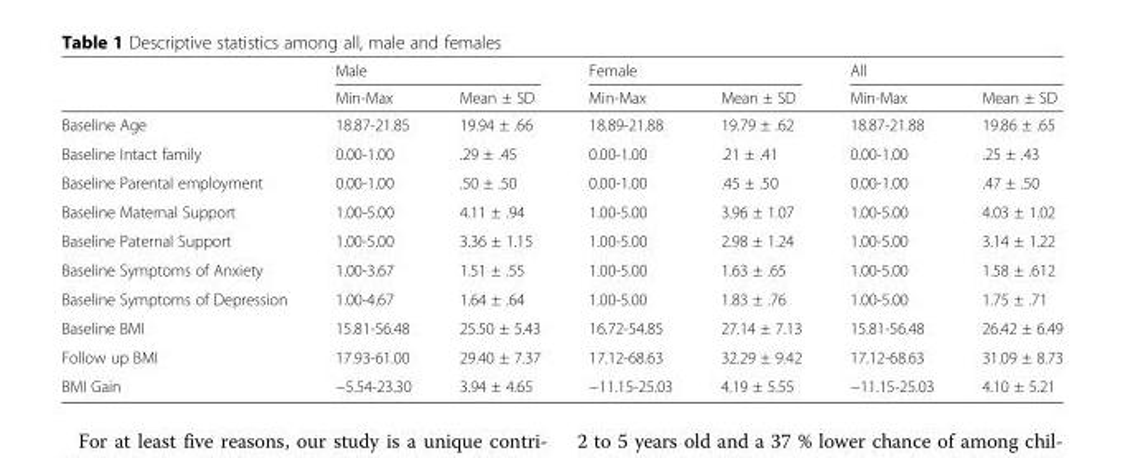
<table><thead><tr><td rowspan="2"></td><td colspan="2">Male</td><td colspan="2">Female</td><td colspan="2">All</td></tr><tr><td>Min-Max</td><td>Mean ± SD</td><td>Min-Max</td><td>Mean ± SD</td><td>Min-Max</td><td>Mean ± SD</td></tr></thead><tbody><tr><td>Baseline Age</td><td>18.87-21.85</td><td>19.94 ± .66</td><td>18.89-21.88</td><td>19.79 ± .62</td><td>18.87-21.88</td><td>19.86 ± .65</td></tr><tr><td>Baseline Intact family</td><td>0.00-1.00</td><td>.29 ± .45</td><td>0.00-1.00</td><td>.21 ± .41</td><td>0.00-1.00</td><td>.25 ± .43</td></tr><tr><td>Baseline Parental employment</td><td>0.00-1.00</td><td>.50 ± .50</td><td>0.00-1.00</td><td>.45 ± .50</td><td>0.00-1.00</td><td>.47 ± .50</td></tr><tr><td>Baseline Maternal Support</td><td>1.00-5.00</td><td>4.11 ± .94</td><td>1.00-5.00</td><td>3.96 ± 1.07</td><td>1.00-5.00</td><td>4.03 ± 1.02</td></tr><tr><td>Baseline Paternal Support</td><td>1.00-5.00</td><td>3.36 ± 1.15</td><td>1.00-5.00</td><td>2.98 ± 1.24</td><td>1.00-5.00</td><td>3.14 ± 1.22</td></tr><tr><td>Baseline Symptoms of Anxiety</td><td>1.00-3.67</td><td>1.51 ± .55</td><td>1.00-5.00</td><td>1.63 ± .65</td><td>1.00-5.00</td><td>1.58 ± .612</td></tr><tr><td>Baseline Symptoms of Depression</td><td>1.00-4.67</td><td>1.64 ± .64</td><td>1.00-5.00</td><td>1.83 ± .76</td><td>1.00-5.00</td><td>1.75 ± .71</td></tr><tr><td>Baseline BMI</td><td>15.81-56.48</td><td>25.50 ± 5.43</td><td>16.72-54.85</td><td>27.14 ± 7.13</td><td>15.81-56.48</td><td>26.42 ± 6.49</td></tr><tr><td>Follow up BMI</td><td>17.93-61.00</td><td>29.40 ± 7.37</td><td>17.12-68.63</td><td>32.29 ± 9.42</td><td>17.12-68.63</td><td>31.09 ± 8.73</td></tr><tr><td>BMI Gain</td><td>−5.54-23.30</td><td>3.94 ± 4.65</td><td>−11.15-25.03</td><td>4.19 ± 5.55</td><td>−11.15-25.03</td><td>4.10 ± 5.21</td></tr></tbody></table>